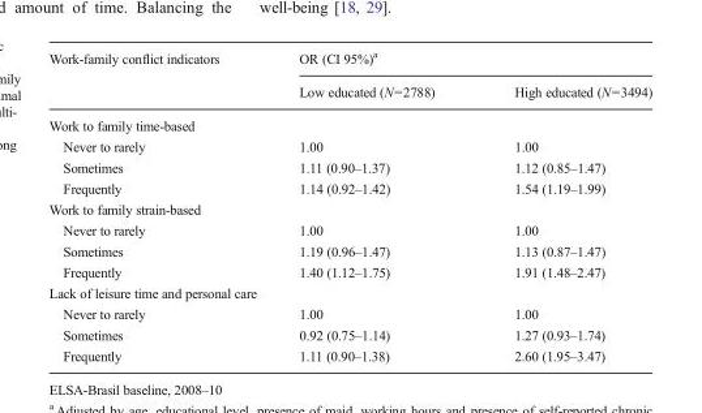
<table><thead><tr><td rowspan="2">Work-family conflict indicators</td><td colspan="2">OR (CI 95%)<sup>a</sup></td></tr><tr><td>Low educated (N=2788)</td><td>High educated (N=3494)</td></tr></thead><tbody><tr><td colspan="3">Work to family time-based</td></tr><tr><td>Never to rarely</td><td>1.00</td><td>1.00</td></tr><tr><td>Sometimes</td><td>1.11 (0.90–1.37)</td><td>1.12 (0.85–1.47)</td></tr><tr><td>Frequently</td><td>1.14 (0.92–1.42)</td><td>1.54 (1.19–1.99)</td></tr><tr><td colspan="3">Work to family strain-based</td></tr><tr><td>Never to rarely</td><td>1.00</td><td>1.00</td></tr><tr><td>Sometimes</td><td>1.19 (0.96–1.47)</td><td>1.13 (0.87–1.47)</td></tr><tr><td>Frequently</td><td>1.40 (1.12–1.75)</td><td>1.91 (1.48–2.47)</td></tr><tr><td colspan="3">Lack of leisure time and personal care</td></tr><tr><td>Never to rarely</td><td>1.00</td><td>1.00</td></tr><tr><td>Sometimes</td><td>0.92 (0.75–1.14)</td><td>1.27 (0.93–1.74)</td></tr><tr><td>Frequently</td><td>1.11 (0.90–1.38)</td><td>2.60 (1.95–3.47)</td></tr></tbody></table>